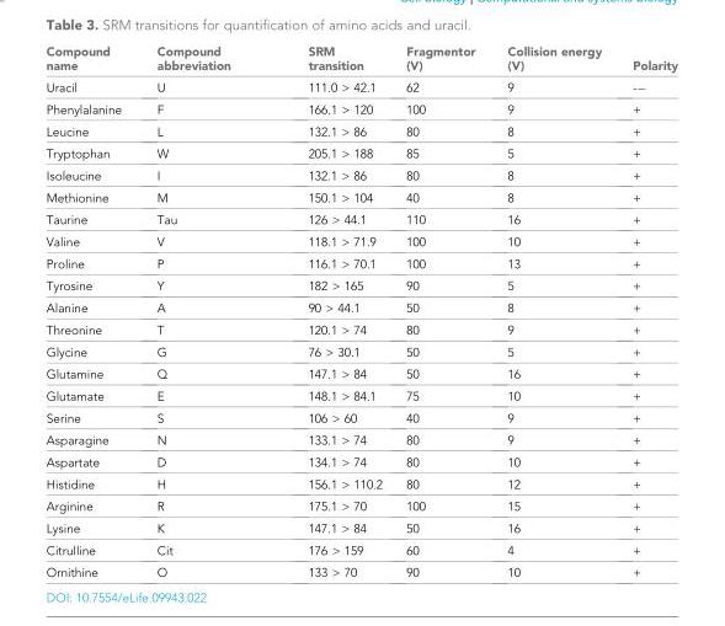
<table><thead><tr><td>Compound name</td><td>Compound abbreviation</td><td>SRM transition</td><td>Fragmentor (V)</td><td>Collision energy (V)</td><td>Polarity</td></tr></thead><tbody><tr><td>Uracil</td><td>U</td><td>111.0 &gt; 42.1</td><td>62</td><td>9</td><td>-−</td></tr><tr><td>Phenylalanine</td><td>F</td><td>166.1 &gt; 120</td><td>100</td><td>9</td><td>+</td></tr><tr><td>Leucine</td><td>L</td><td>132.1 &gt; 86</td><td>80</td><td>8</td><td>+</td></tr><tr><td>Tryptophan</td><td>W</td><td>205.1 &gt; 188</td><td>85</td><td>5</td><td>+</td></tr><tr><td>Isoleucine</td><td>I</td><td>132.1 &gt; 86</td><td>80</td><td>8</td><td>+</td></tr><tr><td>Methionine</td><td>M</td><td>150.1 &gt; 104</td><td>40</td><td>8</td><td>+</td></tr><tr><td>Taurine</td><td>Tau</td><td>126 &gt; 44.1</td><td>110</td><td>16</td><td>+</td></tr><tr><td>Valine</td><td>V</td><td>118.1 &gt; 71.9</td><td>100</td><td>10</td><td>+</td></tr><tr><td>Proline</td><td>P</td><td>116.1 &gt; 70.1</td><td>100</td><td>13</td><td>+</td></tr><tr><td>Tyrosine</td><td>Y</td><td>182 &gt; 165</td><td>90</td><td>5</td><td>+</td></tr><tr><td>Alanine</td><td>A</td><td>90 &gt; 44.1</td><td>50</td><td>8</td><td>+</td></tr><tr><td>Threonine</td><td>T</td><td>120.1 &gt; 74</td><td>80</td><td>9</td><td>+</td></tr><tr><td>Glycine</td><td>G</td><td>76 &gt; 30.1</td><td>50</td><td>5</td><td>+</td></tr><tr><td>Glutamine</td><td>Q</td><td>147.1 &gt; 84</td><td>50</td><td>16</td><td>+</td></tr><tr><td>Glutamate</td><td>E</td><td>148.1 &gt; 84.1</td><td>75</td><td>10</td><td>+</td></tr><tr><td>Serine</td><td>S</td><td>106 &gt; 60</td><td>40</td><td>9</td><td>+</td></tr><tr><td>Asparagine</td><td>N</td><td>133.1 &gt; 74</td><td>80</td><td>9</td><td>+</td></tr><tr><td>Aspartate</td><td>D</td><td>134.1 &gt; 74</td><td>80</td><td>10</td><td>+</td></tr><tr><td>Histidine</td><td>H</td><td>156.1 &gt; 110.2</td><td>80</td><td>12</td><td>+</td></tr><tr><td>Arginine</td><td>R</td><td>175.1 &gt; 70</td><td>100</td><td>15</td><td>+</td></tr><tr><td>Lysine</td><td>K</td><td>147.1 &gt; 84</td><td>50</td><td>16</td><td>+</td></tr><tr><td>Citrulline</td><td>Cit</td><td>176 &gt; 159</td><td>60</td><td>4</td><td>+</td></tr><tr><td>Ornithine</td><td>O</td><td>133 &gt; 70</td><td>90</td><td>10</td><td>+</td></tr></tbody></table>